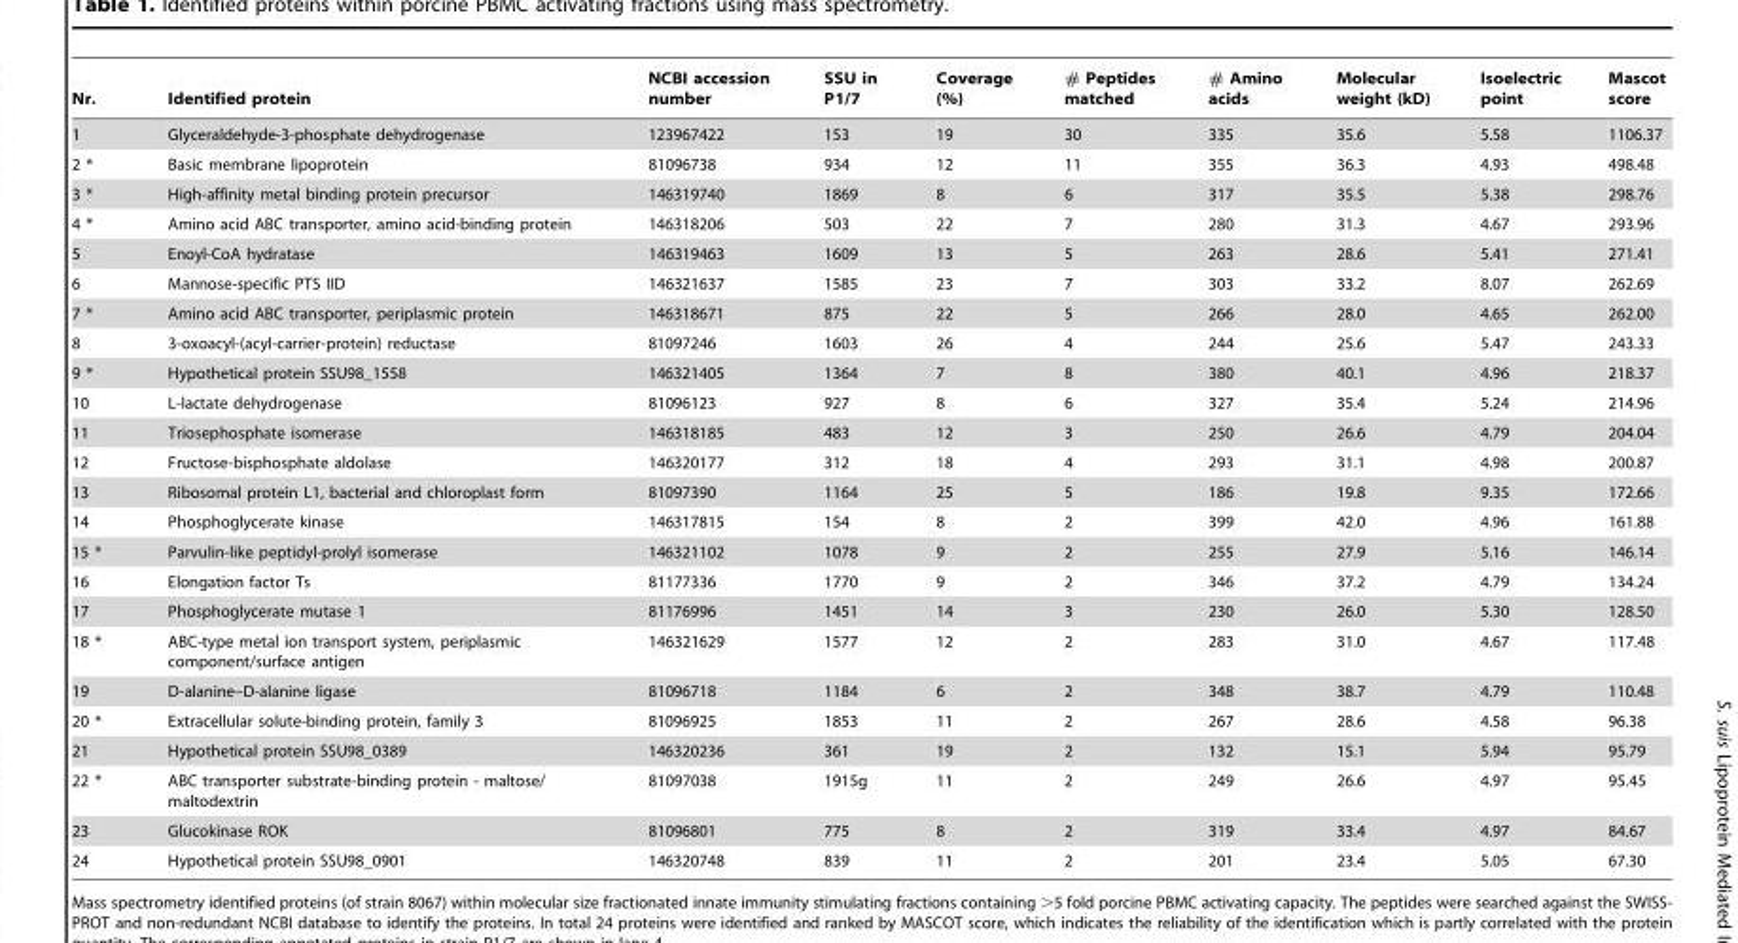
<table><thead><tr><td>Nr.</td><td>Identified protein</td><td>NCBI accession number</td><td>SSU in P1/7</td><td>Coverage (%)</td><td># Peptides matched</td><td># Amino acids</td><td>Molecular weight (kD)</td><td>Isoelectric point</td><td>Mascot score</td></tr></thead><tbody><tr><td>1</td><td>Glyceraldehyde-3-phosphate dehydrogenase</td><td>123967422</td><td>153</td><td>19</td><td>30</td><td>335</td><td>35.6</td><td>5.58</td><td>1106.37</td></tr><tr><td>2 *</td><td>Basic membrane lipoprotein</td><td>81096738</td><td>934</td><td>12</td><td>11</td><td>355</td><td>36.3</td><td>4.93</td><td>498.48</td></tr><tr><td>3 *</td><td>High-affinity metal binding protein precursor</td><td>146319740</td><td>1869</td><td>8</td><td>6</td><td>317</td><td>35.5</td><td>5.38</td><td>298.76</td></tr><tr><td>4 *</td><td>Amino acid ABC transporter, amino acid-binding protein</td><td>146318206</td><td>503</td><td>22</td><td>7</td><td>280</td><td>31.3</td><td>4.67</td><td>293.96</td></tr><tr><td>5</td><td>Enoyl-CoA hydratase</td><td>146319463</td><td>1609</td><td>13</td><td>5</td><td>263</td><td>28.6</td><td>5.41</td><td>271.41</td></tr><tr><td>6</td><td>Mannose-specific PTS IID</td><td>146321637</td><td>1585</td><td>23</td><td>7</td><td>303</td><td>33.2</td><td>8.07</td><td>262.69</td></tr><tr><td>7 *</td><td>Amino acid ABC transporter, periplasmic protein</td><td>146318671</td><td>875</td><td>22</td><td>5</td><td>266</td><td>28.0</td><td>4.65</td><td>262.00</td></tr><tr><td>8</td><td>3-oxoacyl-(acyl-carrier-protein) reductase</td><td>81097246</td><td>1603</td><td>26</td><td>4</td><td>244</td><td>25.6</td><td>5.47</td><td>243.33</td></tr><tr><td>9 *</td><td>Hypothetical protein SSU98_1558</td><td>146321405</td><td>1364</td><td>7</td><td>8</td><td>380</td><td>40.1</td><td>4.96</td><td>218.37</td></tr><tr><td>10</td><td>L-lactate dehydrogenase</td><td>81096123</td><td>927</td><td>8</td><td>6</td><td>327</td><td>35.4</td><td>5.24</td><td>214.96</td></tr><tr><td>11</td><td>Triosephosphate isomerase</td><td>146318185</td><td>483</td><td>12</td><td>3</td><td>250</td><td>26.6</td><td>4.79</td><td>204.04</td></tr><tr><td>12</td><td>Fructose-bisphosphate aldolase</td><td>146320177</td><td>312</td><td>18</td><td>4</td><td>293</td><td>31.1</td><td>4.98</td><td>200.87</td></tr><tr><td>13</td><td>Ribosomal protein L1, bacterial and chloroplast form</td><td>81097390</td><td>1164</td><td>25</td><td>5</td><td>186</td><td>19.8</td><td>9.35</td><td>172.66</td></tr><tr><td>14</td><td>Phosphoglycerate kinase</td><td>146317815</td><td>154</td><td>8</td><td>2</td><td>399</td><td>42.0</td><td>4.96</td><td>161.88</td></tr><tr><td>15 *</td><td>Parvulin-like peptidyl-prolyl isomerase</td><td>146321102</td><td>1078</td><td>9</td><td>2</td><td>255</td><td>27.9</td><td>5.16</td><td>146.14</td></tr><tr><td>16</td><td>Elongation factor Ts</td><td>81177336</td><td>1770</td><td>9</td><td>2</td><td>346</td><td>37.2</td><td>4.79</td><td>134.24</td></tr><tr><td>17</td><td>Phosphoglycerate mutase 1</td><td>81176996</td><td>1451</td><td>14</td><td>3</td><td>230</td><td>26.0</td><td>5.30</td><td>128.50</td></tr><tr><td>18 *</td><td>ABC-type metal ion transport system, periplasmic component/surface antigen</td><td>146321629</td><td>1577</td><td>12</td><td>2</td><td>283</td><td>31.0</td><td>4.67</td><td>117.48</td></tr><tr><td>19</td><td>D-alanine–D-alanine ligase</td><td>81096718</td><td>1184</td><td>6</td><td>2</td><td>348</td><td>38.7</td><td>4.79</td><td>110.48</td></tr><tr><td>20 *</td><td>Extracellular solute-binding protein, family 3</td><td>81096925</td><td>1853</td><td>11</td><td>2</td><td>267</td><td>28.6</td><td>4.58</td><td>96.38</td></tr><tr><td>21</td><td>Hypothetical protein SSU98_0389</td><td>146320236</td><td>361</td><td>19</td><td>2</td><td>132</td><td>15.1</td><td>5.94</td><td>95.79</td></tr><tr><td>22 *</td><td>ABC transporter substrate-binding protein - maltose/ maltodextrin</td><td>81097038</td><td>1915g</td><td>11</td><td>2</td><td>249</td><td>26.6</td><td>4.97</td><td>95.45</td></tr><tr><td>23</td><td>Glucokinase ROK</td><td>81096801</td><td>775</td><td>8</td><td>2</td><td>319</td><td>33.4</td><td>4.97</td><td>84.67</td></tr><tr><td>24</td><td>Hypothetical protein SSU98_0901</td><td>146320748</td><td>839</td><td>11</td><td>2</td><td>201</td><td>23.4</td><td>5.05</td><td>67.30</td></tr></tbody></table>